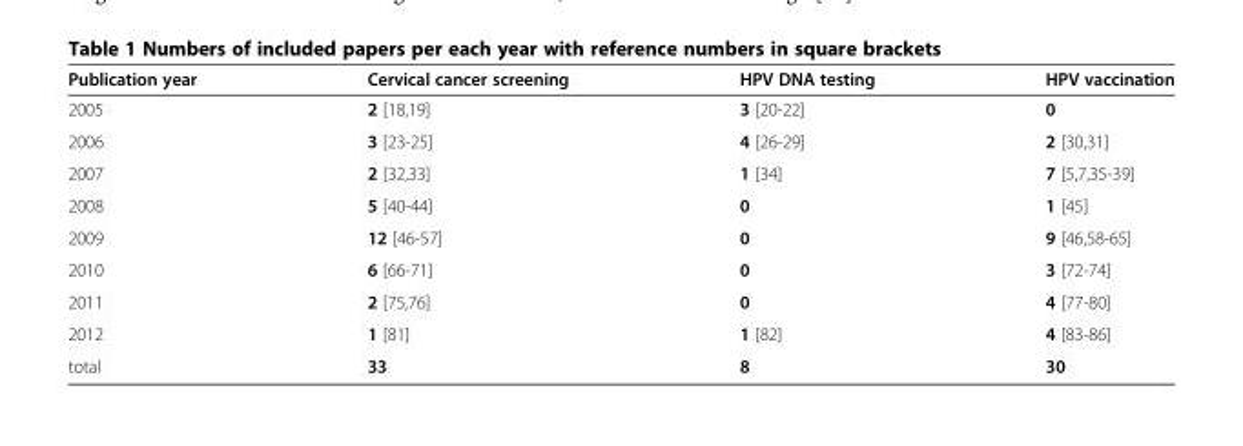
<table><thead><tr><td>Publication year</td><td>Cervical cancer screening</td><td>HPV DNA testing</td><td>HPV vaccination</td></tr></thead><tbody><tr><td>2005</td><td>2 [18,19]</td><td>3 [20-22]</td><td>0</td></tr><tr><td>2006</td><td>3 [23-25]</td><td>4 [26-29]</td><td>2 [30,31]</td></tr><tr><td>2007</td><td>2 [32,33]</td><td>1 [34]</td><td>7 [5,7,35-39]</td></tr><tr><td>2008</td><td>5 [40-44]</td><td>0</td><td>1 [45]</td></tr><tr><td>2009</td><td>12 [46-57]</td><td>0</td><td>9 [46,58-65]</td></tr><tr><td>2010</td><td>6 [66-71]</td><td>0</td><td>3 [72-74]</td></tr><tr><td>2011</td><td>2 [75,76]</td><td>0</td><td>4 [77-80]</td></tr><tr><td>2012</td><td>1 [81]</td><td>1 [82]</td><td>4 [83-86]</td></tr><tr><td>total</td><td>33</td><td>8</td><td>30</td></tr></tbody></table>